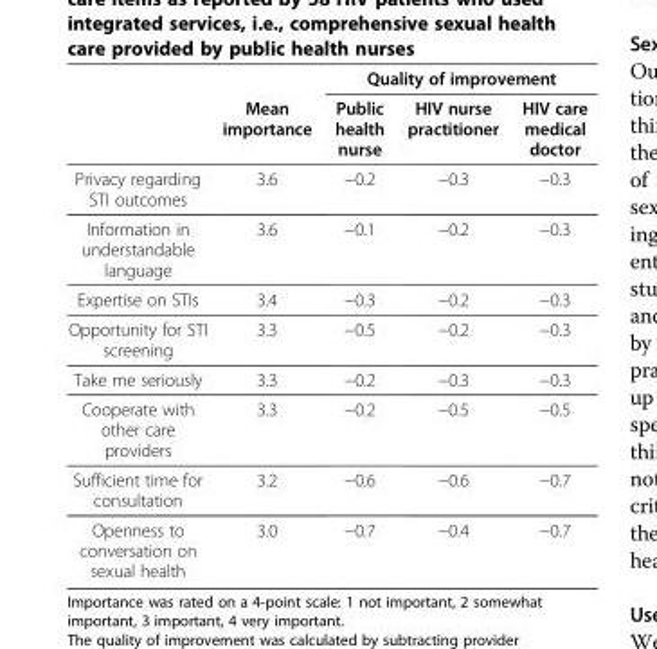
<table><thead><tr><td rowspan="2"></td><td rowspan="2">Mean importance</td><td colspan="3">Quality of improvement</td></tr><tr><td>Public health nurse</td><td>HIV nurse practitioner</td><td>HIV care medical doctor</td></tr></thead><tbody><tr><td>Privacy regarding STI outcomes</td><td>3.6</td><td>−0.2</td><td>−0.3</td><td>−0.3</td></tr><tr><td>Information in understandable language</td><td>3.6</td><td>−0.1</td><td>−0.2</td><td>−0.3</td></tr><tr><td>Expertise on STIs</td><td>3.4</td><td>−0.3</td><td>−0.2</td><td>−0.3</td></tr><tr><td>Opportunity for STI screening</td><td>3.3</td><td>−0.5</td><td>−0.2</td><td>−0.3</td></tr><tr><td>Take me seriously</td><td>3.3</td><td>−0.2</td><td>−0.3</td><td>−0.3</td></tr><tr><td>Cooperate with other care providers</td><td>3.3</td><td>−0.2</td><td>−0.5</td><td>−0.5</td></tr><tr><td>Sufficient time for consultation</td><td>3.2</td><td>−0.6</td><td>−0.6</td><td>−0.7</td></tr><tr><td>Openness to conversation on sexual health</td><td>3.0</td><td>−0.7</td><td>−0.4</td><td>−0.7</td></tr></tbody></table>